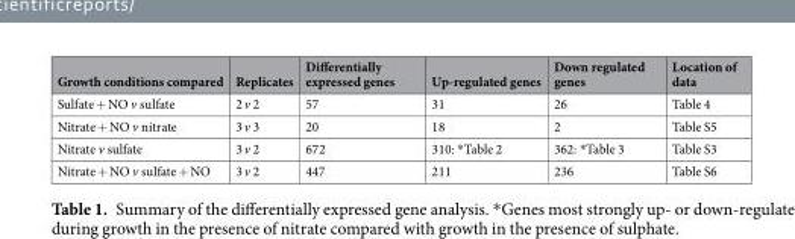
<table><thead><tr><td>Growth conditions compared</td><td>Replicates</td><td>Differentially expressed genes</td><td>Up-regulated genes</td><td>Down regulated genes</td><td>Location of data</td></tr></thead><tbody><tr><td>Sulfate + NO v sulfate</td><td>2 v 2</td><td>57</td><td>31</td><td>26</td><td>Table 4</td></tr><tr><td>Nitrate + NO v nitrate</td><td>3 v 3</td><td>20</td><td>18</td><td>2</td><td>Table S5</td></tr><tr><td>Nitrate v sulfate</td><td>3 v 2</td><td>672</td><td>310: *Table 2</td><td>362: *Table 3</td><td>Table S3</td></tr><tr><td>Nitrate + NO v sulfate + NO</td><td>3 v 2</td><td>447</td><td>211</td><td>236</td><td>Table S6</td></tr></tbody></table>